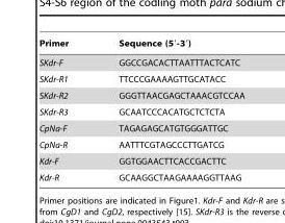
<table><thead><tr><td>Primer</td><td>Sequence (5′-3′)</td></tr></thead><tbody><tr><td>SKdr-F</td><td>GGCCGACACTTAATTTACTCATC</td></tr><tr><td>SKdr-R1</td><td>TTCCCGAAAAGTTGCATACC</td></tr><tr><td>SKdr-R2</td><td>GGGTTAACGAGCTAAACGTCCAA</td></tr><tr><td>SKdr-R3</td><td>GCAATCCCACATGCTCTCTA</td></tr><tr><td>CpNa-F</td><td>TAGAGAGCATGTGGGATTGC</td></tr><tr><td>CpNa-R</td><td>AATTTCGTAGCCCTTGATCG</td></tr><tr><td>Kdr-F</td><td>GGTGGAACTTCACCGACTTC</td></tr><tr><td>Kdr-R</td><td>GCAAGGCTAAGAAAAGGTTAAG</td></tr></tbody></table>